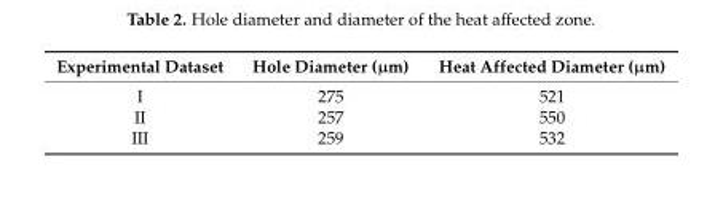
<table><thead><tr><td>Experimental Dataset</td><td>Hole Diameter (µm)</td><td>Heat Affected Diameter (µm)</td></tr></thead><tbody><tr><td>I</td><td>275</td><td>521</td></tr><tr><td>II</td><td>257</td><td>550</td></tr><tr><td>III</td><td>259</td><td>532</td></tr></tbody></table>